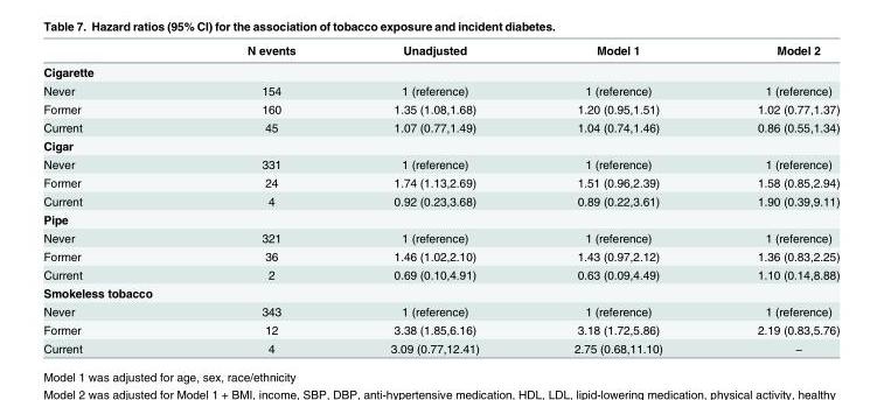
<table><thead><tr><td></td><td>N events</td><td>Unadjusted</td><td>Model 1</td><td>Model 2</td></tr></thead><tbody><tr><td colspan="5">Cigarette</td></tr><tr><td>Never</td><td>154</td><td>1 (reference)</td><td>1 (reference)</td><td>1 (reference)</td></tr><tr><td>Former</td><td>160</td><td>1.35 (1.08,1.68)</td><td>1.20 (0.95,1.51)</td><td>1.02 (0.77,1.37)</td></tr><tr><td>Current</td><td>45</td><td>1.07 (0.77,1.49)</td><td>1.04 (0.74,1.46)</td><td>0.86 (0.55,1.34)</td></tr><tr><td colspan="5">Cigar</td></tr><tr><td>Never</td><td>331</td><td>1 (reference)</td><td>1 (reference)</td><td>1 (reference)</td></tr><tr><td>Former</td><td>24</td><td>1.74 (1.13,2.69)</td><td>1.51 (0.96,2.39)</td><td>1.58 (0.85,2.94)</td></tr><tr><td>Current</td><td>4</td><td>0.92 (0.23,3.68)</td><td>0.89 (0.22,3.61)</td><td>1.90 (0.39,9.11)</td></tr><tr><td colspan="5">Pipe</td></tr><tr><td>Never</td><td>321</td><td>1 (reference)</td><td>1 (reference)</td><td>1 (reference)</td></tr><tr><td>Former</td><td>36</td><td>1.46 (1.02,2.10)</td><td>1.43 (0.97,2.12)</td><td>1.36 (0.83,2.25)</td></tr><tr><td>Current</td><td>2</td><td>0.69 (0.10,4.91)</td><td>0.63 (0.09,4.49)</td><td>1.10 (0.14,8.88)</td></tr><tr><td colspan="5">Smokeless tobacco</td></tr><tr><td>Never</td><td>343</td><td>1 (reference)</td><td>1 (reference)</td><td>1 (reference)</td></tr><tr><td>Former</td><td>12</td><td>3.38 (1.85,6.16)</td><td>3.18 (1.72,5.86)</td><td>2.19 (0.83,5.76)</td></tr><tr><td>Current</td><td>4</td><td>3.09 (0.77,12.41)</td><td>2.75 (0.68,11.10)</td><td>−</td></tr></tbody></table>